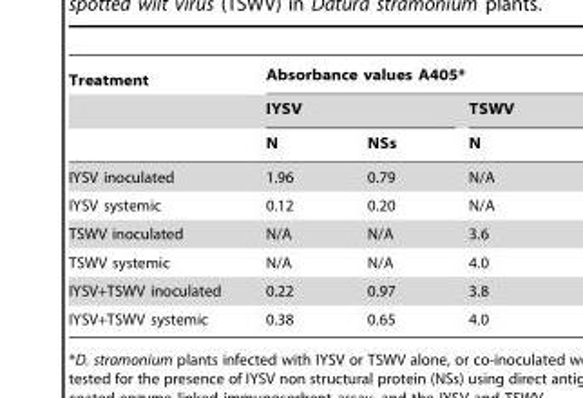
<table><thead><tr><td rowspan="3">Treatment</td><td colspan="3">Absorbance values A405*</td></tr><tr><td colspan="2">IYSV</td><td rowspan="2">TSWV N</td></tr><tr><td>N</td><td>NSs</td></tr></thead><tbody><tr><td>IYSV inoculated</td><td>1.96</td><td>0.79</td><td>N/A</td></tr><tr><td>IYSV systemic</td><td>0.12</td><td>0.20</td><td>N/A</td></tr><tr><td>TSWV inoculated</td><td>N/A</td><td>N/A</td><td>3.6</td></tr><tr><td>TSWV systemic</td><td>N/A</td><td>N/A</td><td>4.0</td></tr><tr><td>IYSV+TSWV inoculated</td><td>0.22</td><td>0.97</td><td>3.8</td></tr><tr><td>IYSV+TSWV systemic</td><td>0.38</td><td>0.65</td><td>4.0</td></tr></tbody></table>